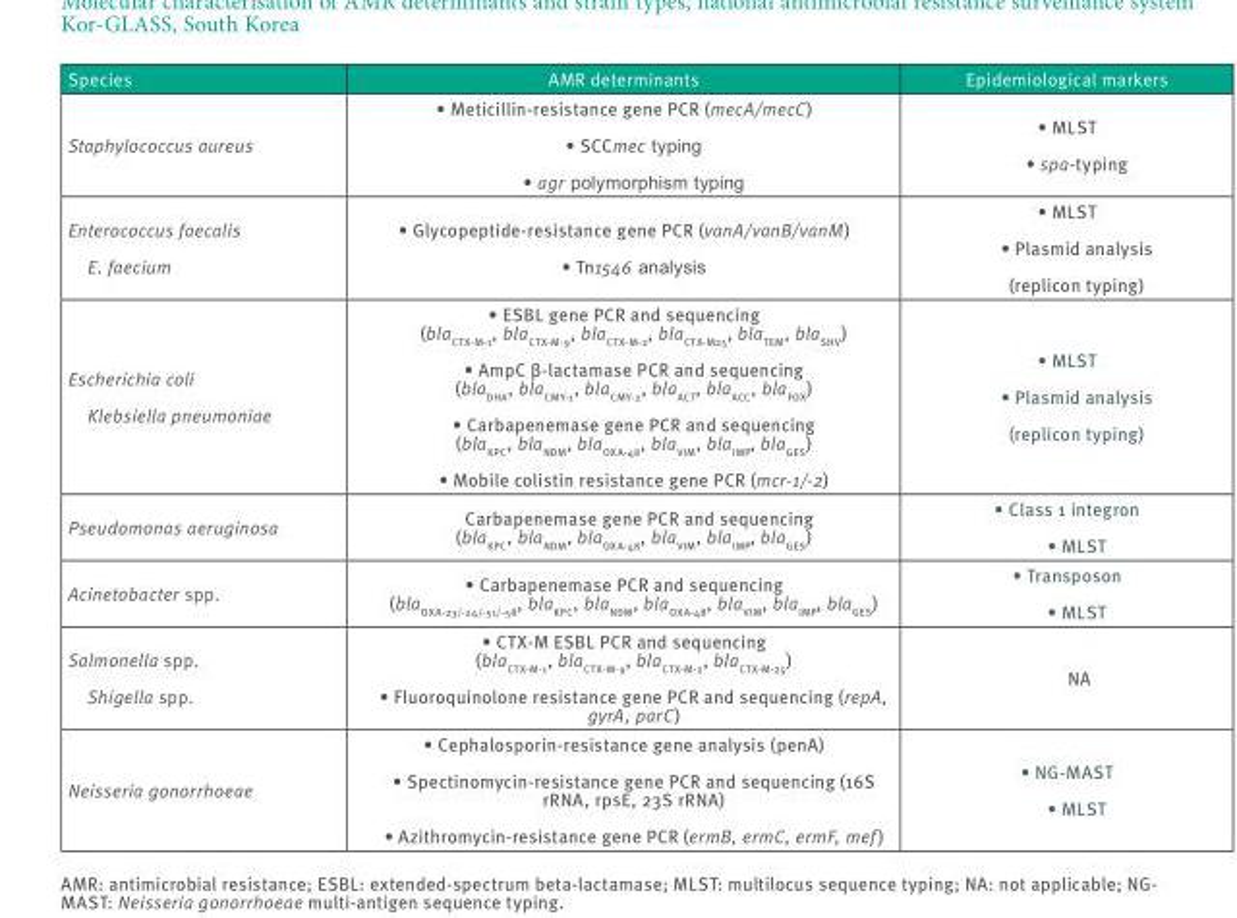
<table><thead><tr><td>Species</td><td>AMR determinants</td><td>Epidemiological markers</td></tr></thead><tbody><tr><td>Staphylococcus aureus</td><td>• Meticillin-resistance gene PCR (mecA/mecC) • SCCmec typing • agr polymorphism typing</td><td>• MLST • spa-typing</td></tr><tr><td>Enterococcus faecalis E. faecium</td><td>• Glycopeptide-resistance gene PCR (vanA/vanB/vanM) • Tn1546 analysis</td><td>• MLST • Plasmid analysis (replicon typing)</td></tr><tr><td>Escherichia coli Klebsiella pneumoniae</td><td>• ESBL gene PCR and sequencing (blaCTX-M-1, blaCTX-M-9, blaCTX-M-2, blaCTX-M25, blaTEM, blaSHV) • AmpC β-lactamase PCR and sequencing (blaDHA, blaCMY-1, blaCMY-2, blaACT, blaACC, blaFOX) • Carbapenemase gene PCR and sequencing (blaKPC, blaNDM, blaOXA-48, blaVIM, blaIMP, blaGES) • Mobile colistin resistance gene PCR (mcr-1/-2)</td><td>• MLST • Plasmid analysis (replicon typing)</td></tr><tr><td>Pseudomonas aeruginosa</td><td>Carbapenemase gene PCR and sequencing (bla<sub>KPC</sub>, bla<sub>NDM</sub>, bla<sub>OXA-48</sub>, bla<sub>VIM</sub>, bla<sub>IMP</sub>, bla<sub>GES</sub>)</td><td>• Class 1 integron • MLST</td></tr><tr><td>Acinetobacter spp.</td><td>• Carbapenemase PCR and sequencing (bla<sub>OXA-23/-24/-51/-58</sub>, bla<sub>KPC</sub>, bla<sub>NDM</sub>, bla<sub>OXA-48</sub>, bla<sub>VIM</sub>, bla<sub>IMP</sub>, bla<sub>GES</sub>)</td><td>• Transposon • MLST</td></tr><tr><td>Salmonella spp. Shigella spp.</td><td>• CTX-M ESBL PCR and sequencing (bla<sub>CTX-M-1</sub>, bla<sub>CTX-M-9</sub>, bla<sub>CTX-M-2</sub>, bla<sub>CTX-M-25</sub>) • Fluoroquinolone resistance gene PCR and sequencing (repA, gyrA, parC)</td><td>NA</td></tr><tr><td>Neisseria gonorrhoeae</td><td>• Cephalosporin-resistance gene analysis (penA) • Spectinomycin-resistance gene PCR and sequencing (16S rRNA, rpsE, 23S rRNA) • Azithromycin-resistance gene PCR (ermB, ermC, ermF, mef)</td><td>• NG-MAST • MLST</td></tr></tbody></table>